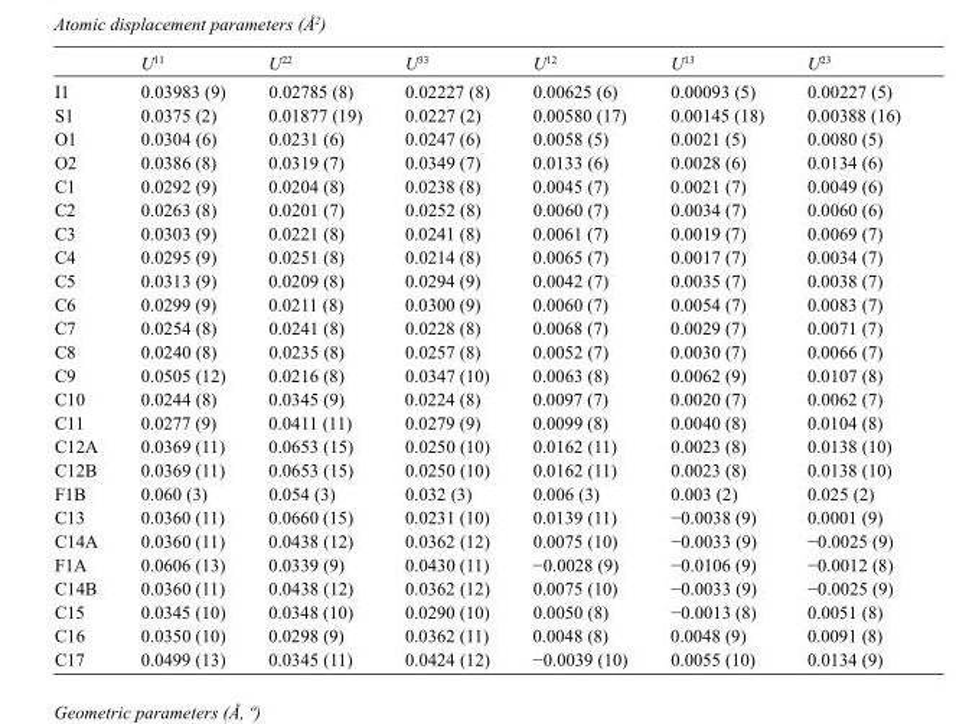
<table><thead><tr><td></td><td>U<sup>11</sup></td><td>U<sup>22</sup></td><td>U<sup>33</sup></td><td>U<sup>12</sup></td><td>U<sup>13</sup></td><td>U<sup>23</sup></td></tr></thead><tbody><tr><td>I1</td><td>0.03983 (9)</td><td>0.02785 (8)</td><td>0.02227 (8)</td><td>0.00625 (6)</td><td>0.00093 (5)</td><td>0.00227 (5)</td></tr><tr><td>S1</td><td>0.0375 (2)</td><td>0.01877 (19)</td><td>0.0227 (2)</td><td>0.00580 (17)</td><td>0.00145 (18)</td><td>0.00388 (16)</td></tr><tr><td>O1</td><td>0.0304 (6)</td><td>0.0231 (6)</td><td>0.0247 (6)</td><td>0.0058 (5)</td><td>0.0021 (5)</td><td>0.0080 (5)</td></tr><tr><td>O2</td><td>0.0386 (8)</td><td>0.0319 (7)</td><td>0.0349 (7)</td><td>0.0133 (6)</td><td>0.0028 (6)</td><td>0.0134 (6)</td></tr><tr><td>C1</td><td>0.0292 (9)</td><td>0.0204 (8)</td><td>0.0238 (8)</td><td>0.0045 (7)</td><td>0.0021 (7)</td><td>0.0049 (6)</td></tr><tr><td>C2</td><td>0.0263 (8)</td><td>0.0201 (7)</td><td>0.0252 (8)</td><td>0.0060 (7)</td><td>0.0034 (7)</td><td>0.0060 (6)</td></tr><tr><td>C3</td><td>0.0303 (9)</td><td>0.0221 (8)</td><td>0.0241 (8)</td><td>0.0061 (7)</td><td>0.0019 (7)</td><td>0.0069 (7)</td></tr><tr><td>C4</td><td>0.0295 (9)</td><td>0.0251 (8)</td><td>0.0214 (8)</td><td>0.0065 (7)</td><td>0.0017 (7)</td><td>0.0034 (7)</td></tr><tr><td>C5</td><td>0.0313 (9)</td><td>0.0209 (8)</td><td>0.0294 (9)</td><td>0.0042 (7)</td><td>0.0035 (7)</td><td>0.0038 (7)</td></tr><tr><td>C6</td><td>0.0299 (9)</td><td>0.0211 (8)</td><td>0.0300 (9)</td><td>0.0060 (7)</td><td>0.0054 (7)</td><td>0.0083 (7)</td></tr><tr><td>C7</td><td>0.0254 (8)</td><td>0.0241 (8)</td><td>0.0228 (8)</td><td>0.0068 (7)</td><td>0.0029 (7)</td><td>0.0071 (7)</td></tr><tr><td>C8</td><td>0.0240 (8)</td><td>0.0235 (8)</td><td>0.0257 (8)</td><td>0.0052 (7)</td><td>0.0030 (7)</td><td>0.0066 (7)</td></tr><tr><td>C9</td><td>0.0505 (12)</td><td>0.0216 (8)</td><td>0.0347 (10)</td><td>0.0063 (8)</td><td>0.0062 (9)</td><td>0.0107 (8)</td></tr><tr><td>C10</td><td>0.0244 (8)</td><td>0.0345 (9)</td><td>0.0224 (8)</td><td>0.0097 (7)</td><td>0.0020 (7)</td><td>0.0062 (7)</td></tr><tr><td>C11</td><td>0.0277 (9)</td><td>0.0411 (11)</td><td>0.0279 (9)</td><td>0.0099 (8)</td><td>0.0040 (8)</td><td>0.0104 (8)</td></tr><tr><td>C12A</td><td>0.0369 (11)</td><td>0.0653 (15)</td><td>0.0250 (10)</td><td>0.0162 (11)</td><td>0.0023 (8)</td><td>0.0138 (10)</td></tr><tr><td>C12B</td><td>0.0369 (11)</td><td>0.0653 (15)</td><td>0.0250 (10)</td><td>0.0162 (11)</td><td>0.0023 (8)</td><td>0.0138 (10)</td></tr><tr><td>F1B</td><td>0.060 (3)</td><td>0.054 (3)</td><td>0.032 (3)</td><td>0.006 (3)</td><td>0.003 (2)</td><td>0.025 (2)</td></tr><tr><td>C13</td><td>0.0360 (11)</td><td>0.0660 (15)</td><td>0.0231 (10)</td><td>0.0139 (11)</td><td>−0.0038 (9)</td><td>0.0001 (9)</td></tr><tr><td>C14A</td><td>0.0360 (11)</td><td>0.0438 (12)</td><td>0.0362 (12)</td><td>0.0075 (10)</td><td>−0.0033 (9)</td><td>−0.0025 (9)</td></tr><tr><td>F1A</td><td>0.0606 (13)</td><td>0.0339 (9)</td><td>0.0430 (11)</td><td>−0.0028 (9)</td><td>−0.0106 (9)</td><td>−0.0012 (8)</td></tr><tr><td>C14B</td><td>0.0360 (11)</td><td>0.0438 (12)</td><td>0.0362 (12)</td><td>0.0075 (10)</td><td>−0.0033 (9)</td><td>−0.0025 (9)</td></tr><tr><td>C15</td><td>0.0345 (10)</td><td>0.0348 (10)</td><td>0.0290 (10)</td><td>0.0050 (8)</td><td>−0.0013 (8)</td><td>0.0051 (8)</td></tr><tr><td>C16</td><td>0.0350 (10)</td><td>0.0298 (9)</td><td>0.0362 (11)</td><td>0.0048 (8)</td><td>0.0048 (9)</td><td>0.0091 (8)</td></tr><tr><td>C17</td><td>0.0499 (13)</td><td>0.0345 (11)</td><td>0.0424 (12)</td><td>−0.0039 (10)</td><td>0.0055 (10)</td><td>0.0134 (9)</td></tr></tbody></table>